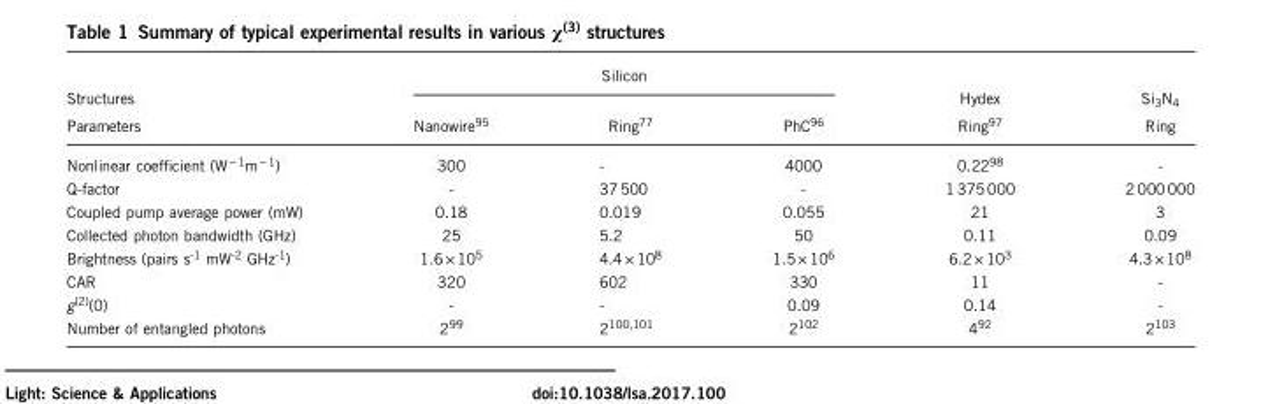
<table><thead><tr><td rowspan="2">Structures Parameters</td><td colspan="3">Silicon</td><td rowspan="2">Hydex Ring<sup>97</sup></td><td rowspan="2">Si<sub>3</sub>N<sub>4</sub> Ring</td></tr><tr><td>Nanowire<sup>95</sup></td><td>Ring<sup>77</sup></td><td>PhC<sup>96</sup></td></tr></thead><tbody><tr><td>Nonlinear coefficient (W<sup>− 1</sup>m <sup>− 1</sup>)</td><td>300</td><td>-</td><td>4000</td><td>0.22<sup>98</sup></td><td>-</td></tr><tr><td>Q-factor</td><td>-</td><td>37500</td><td>-</td><td>1 375000</td><td>2 000 000</td></tr><tr><td>Coupled pump average power (mW)</td><td>0.18</td><td>0.019</td><td>0.055</td><td>21</td><td>3</td></tr><tr><td>Collected photon bandwidth (GHz)</td><td>25</td><td>5.2</td><td>50</td><td>0.11</td><td>0.09</td></tr><tr><td>Brightness (pairs s<sup>-1</sup> mW<sup>-2</sup> GHz<sup>-1</sup>)</td><td>1.6 × 10<sup>5</sup></td><td>4.4 × 10<sup>8</sup></td><td>1.5× 10<sup>6</sup></td><td>6.2 × 10<sup>3</sup></td><td>4.3 × 10<sup>8</sup></td></tr><tr><td>CAR</td><td>320</td><td>602</td><td>330</td><td>11</td><td>-</td></tr><tr><td>g<sup>(2)</sup>(0)</td><td>-</td><td>-</td><td>0.09</td><td>0.14</td><td>-</td></tr><tr><td>Number of entangled photons</td><td>2<sup>99</sup></td><td>2<sup>100,101</sup></td><td>2<sup>102</sup></td><td>4<sup>92</sup></td><td>2<sup>103</sup></td></tr></tbody></table>